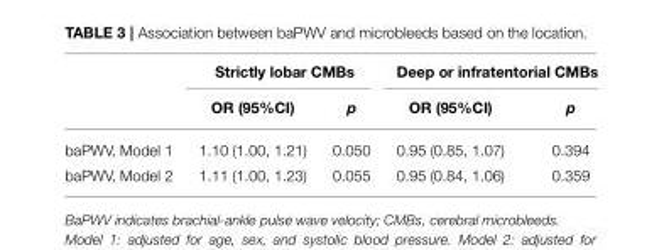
<table><thead><tr><td rowspan="2"></td><td colspan="2">Strictly lobar CMBs</td><td colspan="2">Deep or infratentorial CMBs</td></tr><tr><td>OR (95%CI)</td><td>p</td><td>OR (95%CI)</td><td>p</td></tr></thead><tbody><tr><td>baPWV, Model 1</td><td>1.10 (1.00, 1.21)</td><td>0.050</td><td>0.95 (0.85, 1.07)</td><td>0.394</td></tr><tr><td>baPWV, Model 2</td><td>1.11 (1.00, 1.23)</td><td>0.055</td><td>0.95 (0.84, 1.06)</td><td>0.359</td></tr></tbody></table>